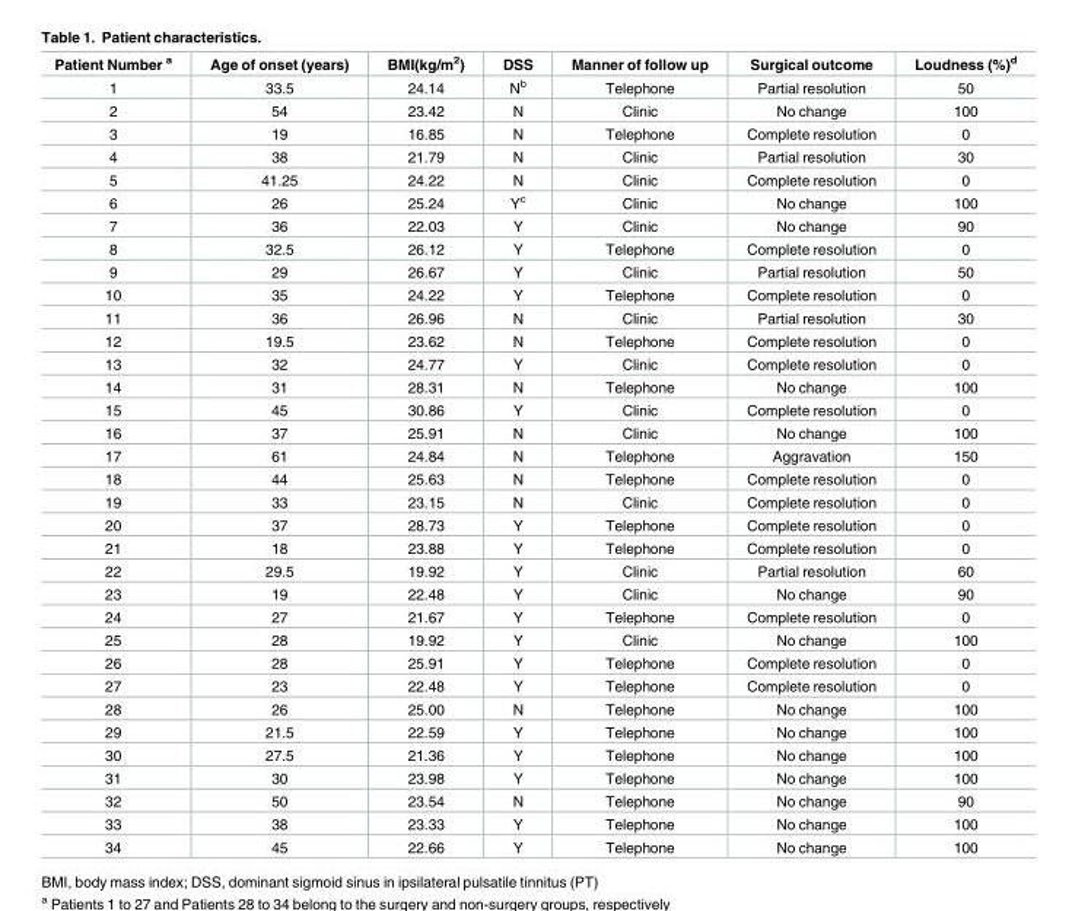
<table><thead><tr><td>Patient Number <sup>a</sup></td><td>Age of onset (years)</td><td>BMI(kg/m<sup>2</sup>)</td><td>DSS</td><td>Manner of follow up</td><td>Surgical outcome</td><td>Loudness (%)<sup>d</sup></td></tr></thead><tbody><tr><td>1</td><td>33.5</td><td>24.14</td><td>N<sup>b</sup></td><td>Telephone</td><td>Partial resolution</td><td>50</td></tr><tr><td>2</td><td>54</td><td>23.42</td><td>N</td><td>Clinic</td><td>No change</td><td>100</td></tr><tr><td>3</td><td>19</td><td>16.85</td><td>N</td><td>Telephone</td><td>Complete resolution</td><td>0</td></tr><tr><td>4</td><td>38</td><td>21.79</td><td>N</td><td>Clinic</td><td>Partial resolution</td><td>30</td></tr><tr><td>5</td><td>41.25</td><td>24.22</td><td>N</td><td>Clinic</td><td>Complete resolution</td><td>0</td></tr><tr><td>6</td><td>26</td><td>25.24</td><td>Y<sup>c</sup></td><td>Clinic</td><td>No change</td><td>100</td></tr><tr><td>7</td><td>36</td><td>22.03</td><td>Y</td><td>Clinic</td><td>No change</td><td>90</td></tr><tr><td>8</td><td>32.5</td><td>26.12</td><td>Y</td><td>Telephone</td><td>Complete resolution</td><td>0</td></tr><tr><td>9</td><td>29</td><td>26.67</td><td>Y</td><td>Clinic</td><td>Partial resolution</td><td>50</td></tr><tr><td>10</td><td>35</td><td>24.22</td><td>Y</td><td>Telephone</td><td>Complete resolution</td><td>0</td></tr><tr><td>11</td><td>36</td><td>26.96</td><td>N</td><td>Clinic</td><td>Partial resolution</td><td>30</td></tr><tr><td>12</td><td>19.5</td><td>23.62</td><td>N</td><td>Telephone</td><td>Complete resolution</td><td>0</td></tr><tr><td>13</td><td>32</td><td>24.77</td><td>Y</td><td>Clinic</td><td>Complete resolution</td><td>0</td></tr><tr><td>14</td><td>31</td><td>28.31</td><td>N</td><td>Telephone</td><td>No change</td><td>100</td></tr><tr><td>15</td><td>45</td><td>30.86</td><td>Y</td><td>Clinic</td><td>Complete resolution</td><td>0</td></tr><tr><td>16</td><td>37</td><td>25.91</td><td>N</td><td>Clinic</td><td>No change</td><td>100</td></tr><tr><td>17</td><td>61</td><td>24.84</td><td>N</td><td>Telephone</td><td>Aggravation</td><td>150</td></tr><tr><td>18</td><td>44</td><td>25.63</td><td>N</td><td>Telephone</td><td>Complete resolution</td><td>0</td></tr><tr><td>19</td><td>33</td><td>23.15</td><td>N</td><td>Clinic</td><td>Complete resolution</td><td>0</td></tr><tr><td>20</td><td>37</td><td>28.73</td><td>Y</td><td>Telephone</td><td>Complete resolution</td><td>0</td></tr><tr><td>21</td><td>18</td><td>23.88</td><td>Y</td><td>Telephone</td><td>Complete resolution</td><td>0</td></tr><tr><td>22</td><td>29.5</td><td>19.92</td><td>Y</td><td>Clinic</td><td>Partial resolution</td><td>60</td></tr><tr><td>23</td><td>19</td><td>22.48</td><td>Y</td><td>Clinic</td><td>No change</td><td>90</td></tr><tr><td>24</td><td>27</td><td>21.67</td><td>Y</td><td>Telephone</td><td>Complete resolution</td><td>0</td></tr><tr><td>25</td><td>28</td><td>19.92</td><td>Y</td><td>Clinic</td><td>No change</td><td>100</td></tr><tr><td>26</td><td>28</td><td>25.91</td><td>Y</td><td>Telephone</td><td>Complete resolution</td><td>0</td></tr><tr><td>27</td><td>23</td><td>22.48</td><td>Y</td><td>Telephone</td><td>Complete resolution</td><td>0</td></tr><tr><td>28</td><td>26</td><td>25.00</td><td>N</td><td>Telephone</td><td>No change</td><td>100</td></tr><tr><td>29</td><td>21.5</td><td>22.59</td><td>Y</td><td>Telephone</td><td>No change</td><td>100</td></tr><tr><td>30</td><td>27.5</td><td>21.36</td><td>Y</td><td>Telephone</td><td>No change</td><td>100</td></tr><tr><td>31</td><td>30</td><td>23.98</td><td>Y</td><td>Telephone</td><td>No change</td><td>100</td></tr><tr><td>32</td><td>50</td><td>23.54</td><td>N</td><td>Telephone</td><td>No change</td><td>90</td></tr><tr><td>33</td><td>38</td><td>23.33</td><td>Y</td><td>Telephone</td><td>No change</td><td>100</td></tr><tr><td>34</td><td>45</td><td>22.66</td><td>Y</td><td>Telephone</td><td>No change</td><td>100</td></tr></tbody></table>